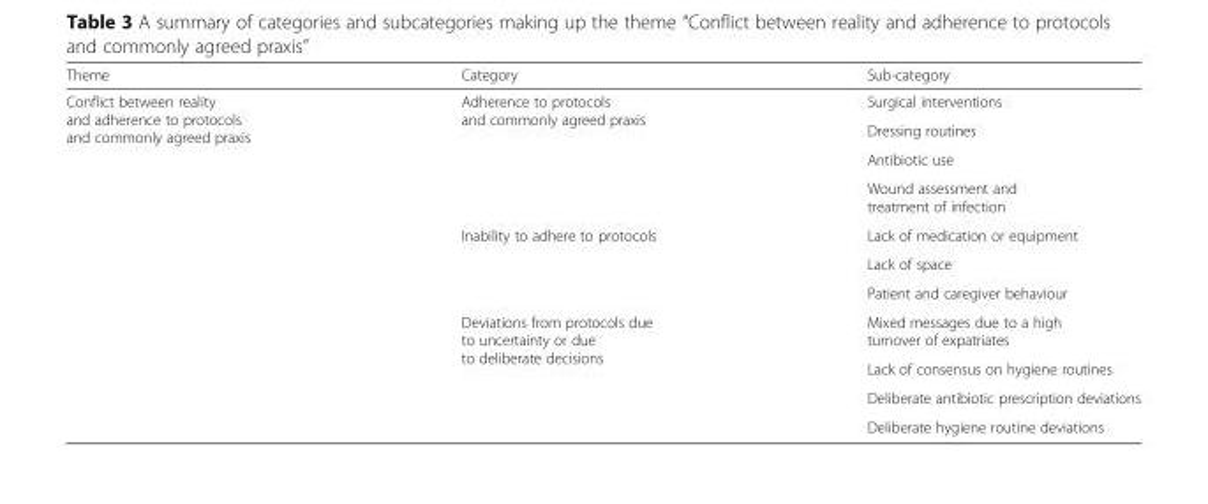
<table><thead><tr><td>Theme</td><td>Category</td><td>Sub-category</td></tr></thead><tbody><tr><td rowspan="11">Conflict between reality and adherence to protocols and commonly agreed praxis</td><td rowspan="4">Adherence to protocols and commonly agreed praxis</td><td>Surgical interventions</td></tr><tr><td>Dressing routines</td></tr><tr><td>Antibiotic use</td></tr><tr><td>Wound assessment and treatment of infection</td></tr><tr><td rowspan="3">Inability to adhere to protocols</td><td>Lack of medication or equipment</td></tr><tr><td>Lack of space</td></tr><tr><td>Patient and caregiver behaviour</td></tr><tr><td rowspan="4">Deviations from protocols due to uncertainty or due to deliberate decisions</td><td>Mixed messages due to a high turnover of expatriates</td></tr><tr><td>Lack of consensus on hygiene routines</td></tr><tr><td>Deliberate antibiotic prescription deviations</td></tr><tr><td>Deliberate hygiene routine deviations</td></tr></tbody></table>